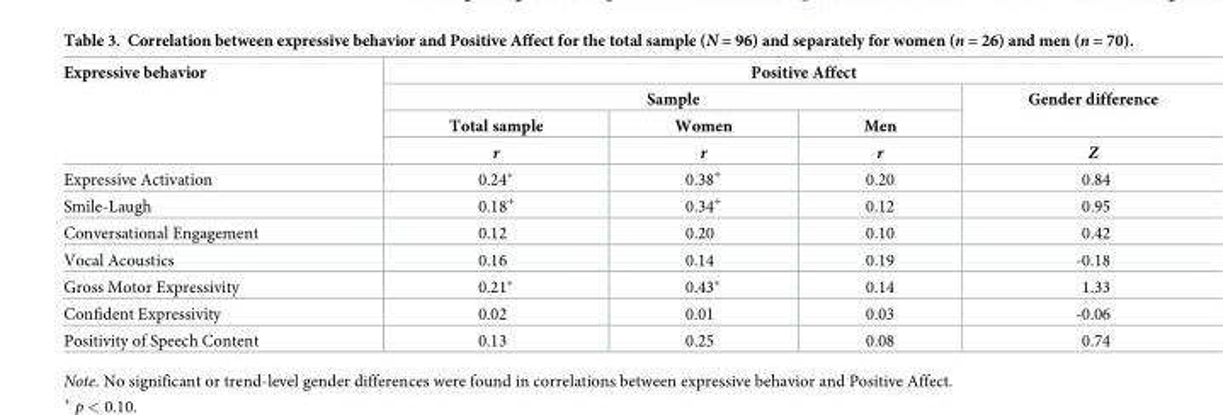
<table><thead><tr><td rowspan="4">Expressive behavior</td><td colspan="4">Positive Affect</td></tr><tr><td colspan="3">Sample</td><td rowspan="3">Gender difference Z</td></tr><tr><td rowspan="2">Total sample r</td><td rowspan="2">Women r</td><td rowspan="2">Men r</td></tr><tr></tr></thead><tbody><tr><td>Expressive Activation</td><td>0.24*</td><td>0.38<sup>+</sup></td><td>0.20</td><td>0.84</td></tr><tr><td>Smile-Laugh</td><td>0.18<sup>+</sup></td><td>0.34<sup>+</sup></td><td>0.12</td><td>0.95</td></tr><tr><td>Conversational Engagement</td><td>0.12</td><td>0.20</td><td>0.10</td><td>0.42</td></tr><tr><td>Vocal Acoustics</td><td>0.16</td><td>0.14</td><td>0.19</td><td>-0.18</td></tr><tr><td>Gross Motor Expressivity</td><td>0.21*</td><td>0.43*</td><td>0.14</td><td>1.33</td></tr><tr><td>Confident Expressivity</td><td>0.02</td><td>0.01</td><td>0.03</td><td>-0.06</td></tr><tr><td>Positivity of Speech Content</td><td>0.13</td><td>0.25</td><td>0.08</td><td>0.74</td></tr></tbody></table>